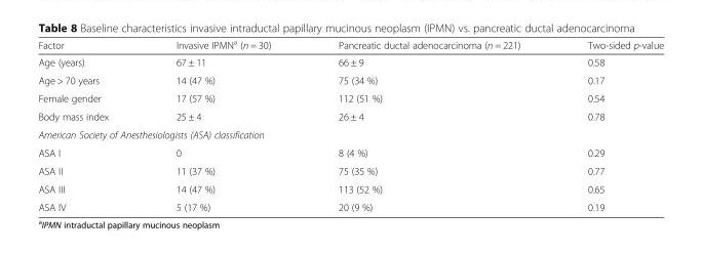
<table><thead><tr><td>Factor</td><td>Invasive IPMN<sup>a</sup> (n = 30)</td><td>Pancreatic ductal adenocarcinoma (n = 221)</td><td>Two-sided p-value</td></tr></thead><tbody><tr><td>Age (years)</td><td>67 ± 11</td><td>66 ± 9</td><td>0.58</td></tr><tr><td>Age &gt; 70 years</td><td>14 (47 %)</td><td>75 (34 %)</td><td>0.17</td></tr><tr><td>Female gender</td><td>17 (57 %)</td><td>112 (51 %)</td><td>0.54</td></tr><tr><td>Body mass index</td><td>25 ± 4</td><td>26 ± 4</td><td>0.78</td></tr><tr><td colspan="4">American Society of Anesthesiologists (ASA) classification</td></tr><tr><td>ASA I</td><td>0</td><td>8 (4 %)</td><td>0.29</td></tr><tr><td>ASA II</td><td>11 (37 %)</td><td>75 (35 %)</td><td>0.77</td></tr><tr><td>ASA III</td><td>14 (47 %)</td><td>113 (52 %)</td><td>0.65</td></tr><tr><td>ASA IV</td><td>5 (17 %)</td><td>20 (9 %)</td><td>0.19</td></tr></tbody></table>